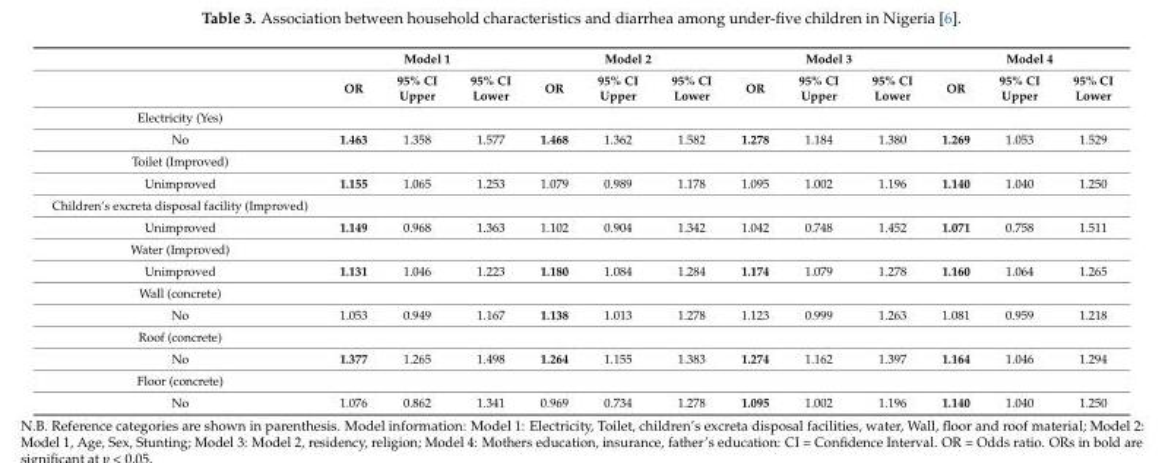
<table><thead><tr><td rowspan="2"></td><td colspan="3">Model 1</td><td colspan="3">Model 2</td><td colspan="3">Model 3</td><td colspan="3">Model 4</td></tr><tr><td>OR</td><td>95% CI Upper</td><td>95% CI Lower</td><td>OR</td><td>95% CI Upper</td><td>95% CI Lower</td><td>OR</td><td>95% CI Upper</td><td>95% CI Lower</td><td>OR</td><td>95% CI Upper</td><td>95% CI Lower</td></tr></thead><tbody><tr><td colspan="13">Electricity (Yes)</td></tr><tr><td>No</td><td>1.463</td><td>1.358</td><td>1.577</td><td>1.468</td><td>1.362</td><td>1.582</td><td>1.278</td><td>1.184</td><td>1.380</td><td>1.269</td><td>1.053</td><td>1.529</td></tr><tr><td colspan="13">Toilet (Improved)</td></tr><tr><td>Unimproved</td><td>1.155</td><td>1.065</td><td>1.253</td><td>1.079</td><td>0.989</td><td>1.178</td><td>1.095</td><td>1.002</td><td>1.196</td><td>1.140</td><td>1.040</td><td>1.250</td></tr><tr><td colspan="13">Children’s excreta disposal facility (Improved)</td></tr><tr><td>Unimproved</td><td>1.149</td><td>0.968</td><td>1.363</td><td>1.102</td><td>0.904</td><td>1.342</td><td>1.042</td><td>0.748</td><td>1.452</td><td>1.071</td><td>0.758</td><td>1.511</td></tr><tr><td colspan="13">Water (Improved)</td></tr><tr><td>Unimproved</td><td>1.131</td><td>1.046</td><td>1.223</td><td>1.180</td><td>1.084</td><td>1.284</td><td>1.174</td><td>1.079</td><td>1.278</td><td>1.160</td><td>1.064</td><td>1.265</td></tr><tr><td colspan="13">Wall (concrete)</td></tr><tr><td>No</td><td>1.053</td><td>0.949</td><td>1.167</td><td>1.138</td><td>1.013</td><td>1.278</td><td>1.123</td><td>0.999</td><td>1.263</td><td>1.081</td><td>0.959</td><td>1.218</td></tr><tr><td colspan="13">Roof (concrete)</td></tr><tr><td>No</td><td>1.377</td><td>1.265</td><td>1.498</td><td>1.264</td><td>1.155</td><td>1.383</td><td>1.274</td><td>1.162</td><td>1.397</td><td>1.164</td><td>1.046</td><td>1.294</td></tr><tr><td colspan="13">Floor (concrete)</td></tr><tr><td>No</td><td>1.076</td><td>0.862</td><td>1.341</td><td>0.969</td><td>0.734</td><td>1.278</td><td>1.095</td><td>1.002</td><td>1.196</td><td>1.140</td><td>1.040</td><td>1.250</td></tr></tbody></table>